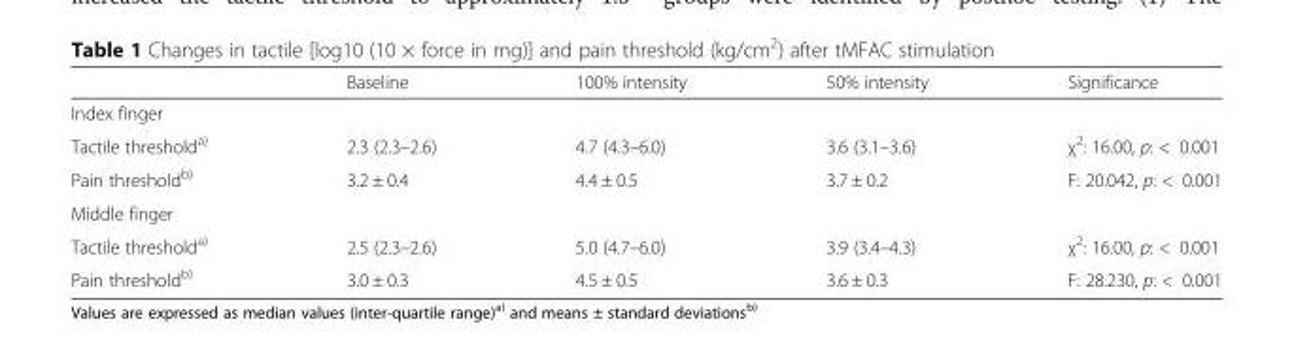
<table><thead><tr><td></td><td>Baseline</td><td>100% intensity</td><td>50% intensity</td><td>Significance</td></tr></thead><tbody><tr><td colspan="5">Index finger</td></tr><tr><td>Tactile threshold<sup>a)</sup></td><td>2.3 (2.3–2.6)</td><td>4.7 (4.3–6.0)</td><td>3.6 (3.1–3.6)</td><td>χ<sup>2</sup>: 16.00, p: &lt; 0.001</td></tr><tr><td>Pain threshold<sup>b)</sup></td><td>3.2 ± 0.4</td><td>4.4 ± 0.5</td><td>3.7 ± 0.2</td><td>F: 20.042, p: &lt; 0.001</td></tr><tr><td colspan="5">Middle finger</td></tr><tr><td>Tactile threshold<sup>a)</sup></td><td>2.5 (2.3–2.6)</td><td>5.0 (4.7–6.0)</td><td>3.9 (3.4–4.3)</td><td>χ<sup>2</sup>: 16.00, p: &lt; 0.001</td></tr><tr><td>Pain threshold<sup>b)</sup></td><td>3.0 ± 0.3</td><td>4.5 ± 0.5</td><td>3.6 ± 0.3</td><td>F: 28.230, p: &lt; 0.001</td></tr></tbody></table>